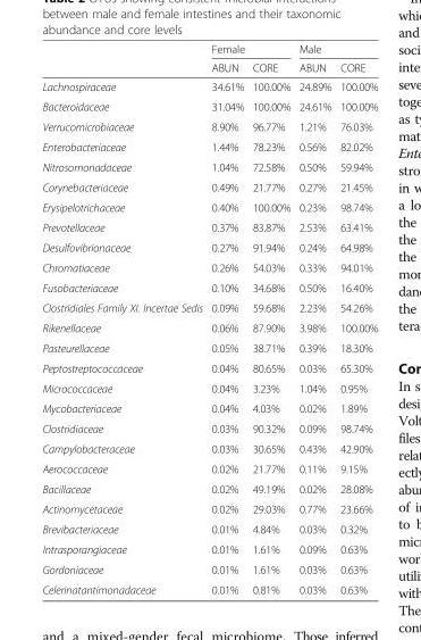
<table><thead><tr><td rowspan="2"></td><td colspan="2">Female</td><td colspan="2">Male</td></tr><tr><td>ABUN</td><td>CORE</td><td>ABUN</td><td>CORE</td></tr></thead><tbody><tr><td>Lachnospiraceae</td><td>34.61%</td><td>100.00%</td><td>24.89%</td><td>100.00%</td></tr><tr><td>Bacteroidaceae</td><td>31.04%</td><td>100.00%</td><td>24.61%</td><td>100.00%</td></tr><tr><td>Verrucomicrobiaceae</td><td>8.90%</td><td>96.77%</td><td>1.21%</td><td>76.03%</td></tr><tr><td>Enterobacteriaceae</td><td>1.44%</td><td>78.23%</td><td>0.56%</td><td>82.02%</td></tr><tr><td>Nitrosomonadaceae</td><td>1.04%</td><td>72.58%</td><td>0.50%</td><td>59.94%</td></tr><tr><td>Corynebacteriaceae</td><td>0.49%</td><td>21.77%</td><td>0.27%</td><td>21.45%</td></tr><tr><td>Erysipelotrichaceae</td><td>0.40%</td><td>100.00%</td><td>0.23%</td><td>98.74%</td></tr><tr><td>Prevotellaceae</td><td>0.37%</td><td>83.87%</td><td>2.53%</td><td>63.41%</td></tr><tr><td>Desulfovibrionaceae</td><td>0.27%</td><td>91.94%</td><td>0.24%</td><td>64.98%</td></tr><tr><td>Chromatiaceae</td><td>0.26%</td><td>54.03%</td><td>0.33%</td><td>94.01%</td></tr><tr><td>Fusobacteriaceae</td><td>0.10%</td><td>34.68%</td><td>0.50%</td><td>16.40%</td></tr><tr><td>Clostridiales Family XI. Incertae Sedis</td><td>0.09%</td><td>59.68%</td><td>2.23%</td><td>54.26%</td></tr><tr><td>Rikenellaceae</td><td>0.06%</td><td>87.90%</td><td>3.98%</td><td>100.00%</td></tr><tr><td>Pasteurellaceae</td><td>0.05%</td><td>38.71%</td><td>0.39%</td><td>18.30%</td></tr><tr><td>Peptostreptococcaceae</td><td>0.04%</td><td>80.65%</td><td>0.03%</td><td>65.30%</td></tr><tr><td>Micrococcaceae</td><td>0.04%</td><td>3.23%</td><td>1.04%</td><td>0.95%</td></tr><tr><td>Mycobacteriaceae</td><td>0.04%</td><td>4.03%</td><td>0.02%</td><td>1.89%</td></tr><tr><td>Clostridiaceae</td><td>0.03%</td><td>90.32%</td><td>0.09%</td><td>98.74%</td></tr><tr><td>Campylobacteraceae</td><td>0.03%</td><td>30.65%</td><td>0.43%</td><td>42.90%</td></tr><tr><td>Aerococcaceae</td><td>0.02%</td><td>21.77%</td><td>0.11%</td><td>9.15%</td></tr><tr><td>Bacillaceae</td><td>0.02%</td><td>49.19%</td><td>0.02%</td><td>28.08%</td></tr><tr><td>Actinomycetaceae</td><td>0.02%</td><td>29.03%</td><td>0.77%</td><td>23.66%</td></tr><tr><td>Brevibacteriaceae</td><td>0.01%</td><td>4.84%</td><td>0.03%</td><td>0.32%</td></tr><tr><td>Intrasporangiaceae</td><td>0.01%</td><td>1.61%</td><td>0.09%</td><td>0.63%</td></tr><tr><td>Gordoniaceae</td><td>0.01%</td><td>1.61%</td><td>0.03%</td><td>0.63%</td></tr><tr><td>Celerinatantimonadaceae</td><td>0.01%</td><td>0.81%</td><td>0.03%</td><td>0.63%</td></tr></tbody></table>